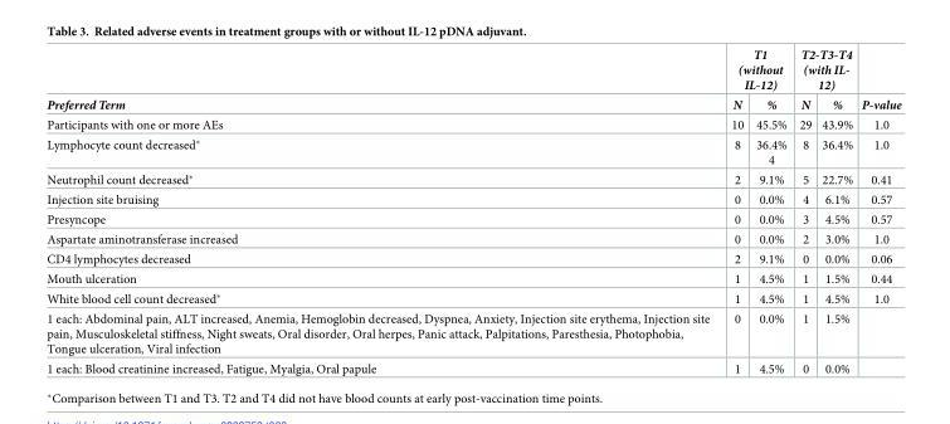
<table><thead><tr><td rowspan="2">Preferred Term</td><td colspan="2">T1 (without IL-12)</td><td colspan="2">T2-T3-T4 (with IL- 12)</td><td rowspan="2">P-value</td></tr><tr><td>N</td><td>%</td><td>N</td><td>%</td></tr></thead><tbody><tr><td>Participants with one or more AEs</td><td>10</td><td>45.5%</td><td>29</td><td>43.9%</td><td>1.0</td></tr><tr><td>Lymphocyte count decreased*</td><td>8</td><td>36.4% 4</td><td>8</td><td>36.4%</td><td>1.0</td></tr><tr><td>Neutrophil count decreased*</td><td>2</td><td>9.1%</td><td>5</td><td>22.7%</td><td>0.41</td></tr><tr><td>Injection site bruising</td><td>0</td><td>0.0%</td><td>4</td><td>6.1%</td><td>0.57</td></tr><tr><td>Presyncope</td><td>0</td><td>0.0%</td><td>3</td><td>4.5%</td><td>0.57</td></tr><tr><td>Aspartate aminotransferase increased</td><td>0</td><td>0.0%</td><td>2</td><td>3.0%</td><td>1.0</td></tr><tr><td>CD4 lymphocytes decreased</td><td>2</td><td>9.1%</td><td>0</td><td>0.0%</td><td>0.06</td></tr><tr><td>Mouth ulceration</td><td>1</td><td>4.5%</td><td>1</td><td>1.5%</td><td>0.44</td></tr><tr><td>White blood cell count decreased*</td><td>1</td><td>4.5%</td><td>1</td><td>4.5%</td><td>1.0</td></tr><tr><td>1 each: Abdominal pain, ALT increased, Anemia, Hemoglobin decreased, Dyspnea, Anxiety, Injection site erythema, Injection site pain, Musculoskeletal stiffness, Night sweats, Oral disorder, Oral herpes, Panic attack, Palpitations, Paresthesia, Photophobia, Tongue ulceration, Viral infection</td><td>0</td><td>0.0%</td><td>1</td><td>1.5%</td><td></td></tr><tr><td>1 each: Blood creatinine increased, Fatigue, Myalgia, Oral papule</td><td>1</td><td>4.5%</td><td>0</td><td>0.0%</td><td></td></tr></tbody></table>